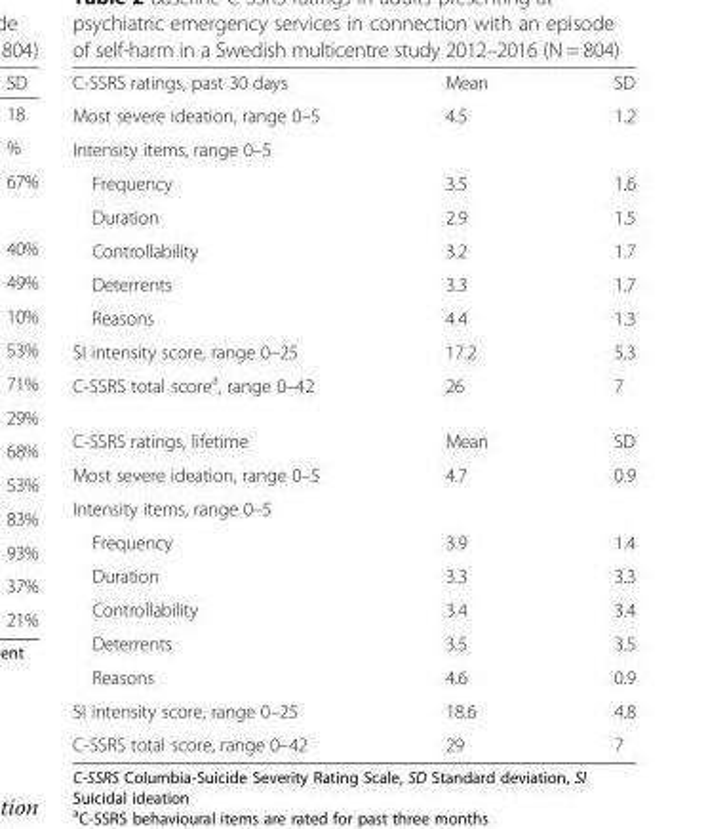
<table><tbody><tr><td>C-SSRS ratings, past 30 days</td><td>Mean</td><td>SD</td></tr><tr><td>Most severe ideation, range 0–5</td><td>4.5</td><td>1.2</td></tr><tr><td colspan="3">Intensity items, range 0–5</td></tr><tr><td>Frequency</td><td>3.5</td><td>1.6</td></tr><tr><td>Duration</td><td>2.9</td><td>1.5</td></tr><tr><td>Controllability</td><td>3.2</td><td>1.7</td></tr><tr><td>Deterrents</td><td>3.3</td><td>1.7</td></tr><tr><td>Reasons</td><td>4.4</td><td>1.3</td></tr><tr><td>SI intensity score, range 0–25</td><td>17.2</td><td>5.3</td></tr><tr><td>C-SSRS total score<sup>a</sup>, range 0–42</td><td>26</td><td>7</td></tr><tr><td>C-SSRS ratings, lifetime</td><td>Mean</td><td>SD</td></tr><tr><td>Most severe ideation, range 0–5</td><td>4.7</td><td>0.9</td></tr><tr><td colspan="3">Intensity items, range 0–5</td></tr><tr><td>Frequency</td><td>3.9</td><td>1.4</td></tr><tr><td>Duration</td><td>3.3</td><td>3.3</td></tr><tr><td>Controllability</td><td>3.4</td><td>3.4</td></tr><tr><td>Deterrents</td><td>3.5</td><td>3.5</td></tr><tr><td>Reasons</td><td>4.6</td><td>0.9</td></tr><tr><td>SI intensity score, range 0–25</td><td>18.6</td><td>4.8</td></tr><tr><td>C-SSRS total score, range 0–42</td><td>29</td><td>7</td></tr></tbody></table>